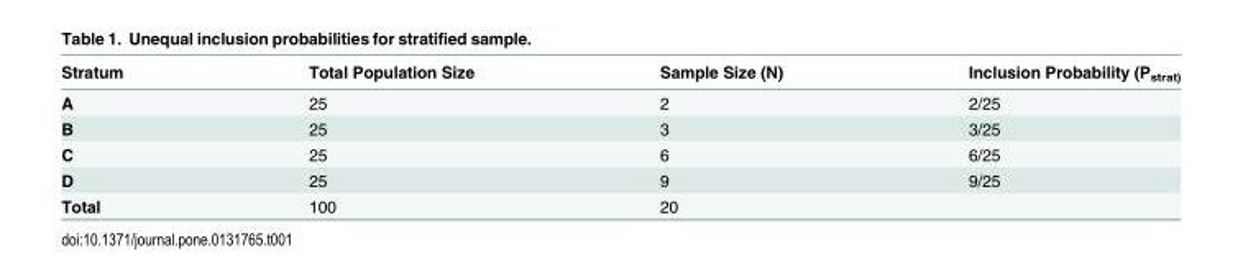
<table><thead><tr><td>Stratum</td><td>Total Population Size</td><td>Sample Size (N)</td><td>Inclusion Probability (P<sub>strat)</sub></td></tr></thead><tbody><tr><td>A</td><td>25</td><td>2</td><td>2/25</td></tr><tr><td>B</td><td>25</td><td>3</td><td>3/25</td></tr><tr><td>C</td><td>25</td><td>6</td><td>6/25</td></tr><tr><td>D</td><td>25</td><td>9</td><td>9/25</td></tr><tr><td>Total</td><td>100</td><td>20</td><td></td></tr></tbody></table>